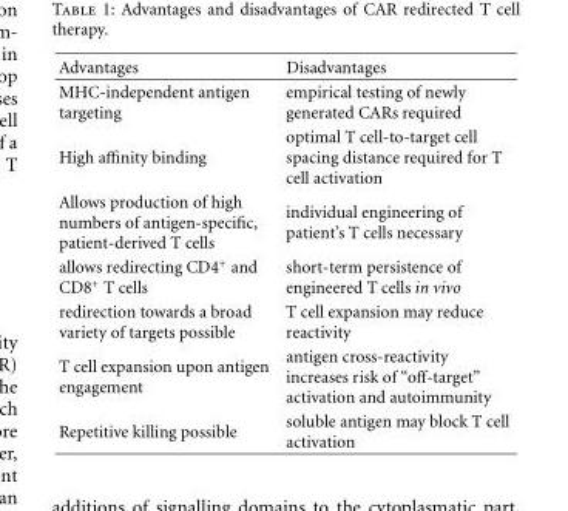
<table><thead><tr><td>Advantages</td><td>Disadvantages</td></tr></thead><tbody><tr><td>MHC-independent antigen targeting</td><td>empirical testing of newly generated CARs required</td></tr><tr><td>High affinity binding</td><td>optimal T cell-to-target cell spacing distance required for T cell activation</td></tr><tr><td>Allows production of high numbers of antigen-specific, patient-derived T cells</td><td>individual engineering of patient’s T cells necessary</td></tr><tr><td>allows redirecting CD4<sup>+</sup> and CD8<sup>+</sup> T cells</td><td>short-term persistence of engineered T cells in vivo</td></tr><tr><td>redirection towards a broad variety of targets possible</td><td>T cell expansion may reduce reactivity</td></tr><tr><td>T cell expansion upon antigen engagement</td><td>antigen cross-reactivity increases risk of “off-target” activation and autoimmunity</td></tr><tr><td>Repetitive killing possible</td><td>soluble antigen may block T cell activation</td></tr></tbody></table>